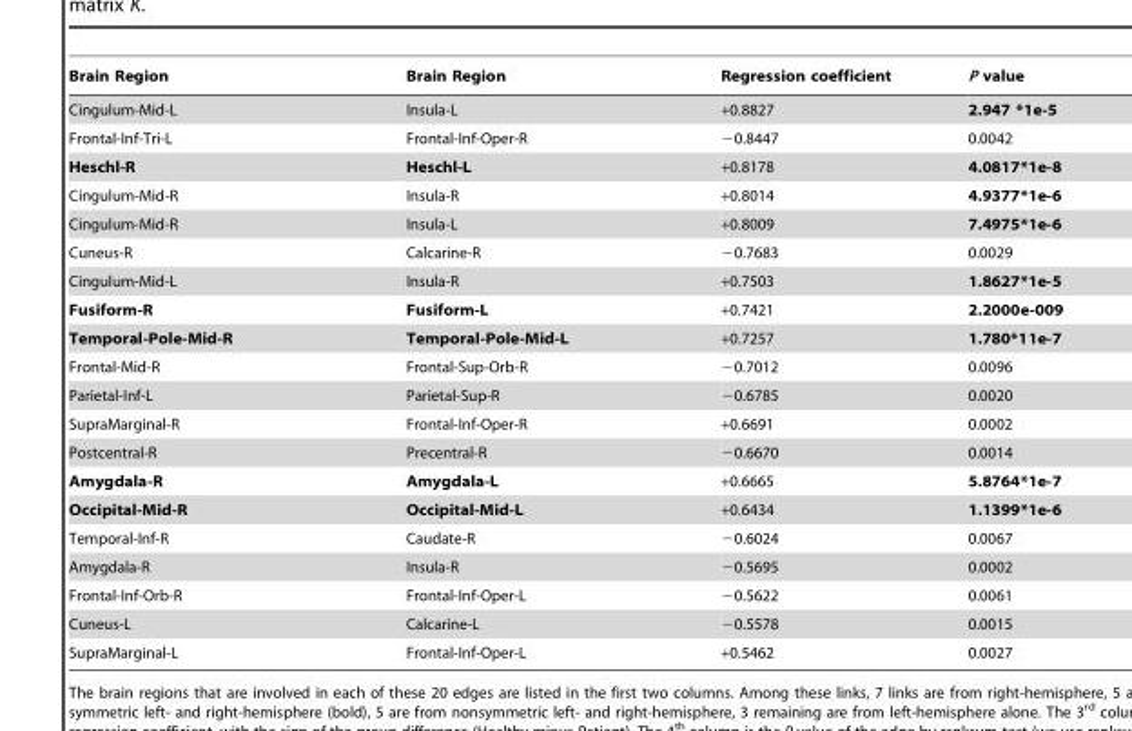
<table><thead><tr><td>Brain Region</td><td>Brain Region</td><td>Regression coefficient</td><td>P value</td></tr></thead><tbody><tr><td>Cingulum-Mid-L</td><td>Insula-L</td><td>+0.8827</td><td>2.947 *1e-5</td></tr><tr><td>Frontal-Inf-Tri-L</td><td>Frontal-Inf-Oper-R</td><td>−0.8447</td><td>0.0042</td></tr><tr><td>Heschl-R</td><td>Heschl-L</td><td>+0.8178</td><td>4.0817*1e-8</td></tr><tr><td>Cingulum-Mid-R</td><td>Insula-R</td><td>+0.8014</td><td>4.9377*1e-6</td></tr><tr><td>Cingulum-Mid-R</td><td>Insula-L</td><td>+0.8009</td><td>7.4975*1e-6</td></tr><tr><td>Cuneus-R</td><td>Calcarine-R</td><td>−0.7683</td><td>0.0029</td></tr><tr><td>Cingulum-Mid-L</td><td>Insula-R</td><td>+0.7503</td><td>1.8627*1e-5</td></tr><tr><td>Fusiform-R</td><td>Fusiform-L</td><td>+0.7421</td><td>2.2000e-009</td></tr><tr><td>Temporal-Pole-Mid-R</td><td>Temporal-Pole-Mid-L</td><td>+0.7257</td><td>1.780*11e-7</td></tr><tr><td>Frontal-Mid-R</td><td>Frontal-Sup-Orb-R</td><td>−0.7012</td><td>0.0096</td></tr><tr><td>Parietal-Inf-L</td><td>Parietal-Sup-R</td><td>−0.6785</td><td>0.0020</td></tr><tr><td>SupraMarginal-R</td><td>Frontal-Inf-Oper-R</td><td>+0.6691</td><td>0.0002</td></tr><tr><td>Postcentral-R</td><td>Precentral-R</td><td>−0.6670</td><td>0.0014</td></tr><tr><td>Amygdala-R</td><td>Amygdala-L</td><td>+0.6665</td><td>5.8764*1e-7</td></tr><tr><td>Occipital-Mid-R</td><td>Occipital-Mid-L</td><td>+0.6434</td><td>1.1399*1e-6</td></tr><tr><td>Temporal-Inf-R</td><td>Caudate-R</td><td>−0.6024</td><td>0.0067</td></tr><tr><td>Amygdala-R</td><td>Insula-R</td><td>−0.5695</td><td>0.0002</td></tr><tr><td>Frontal-Inf-Orb-R</td><td>Frontal-Inf-Oper-L</td><td>−0.5622</td><td>0.0061</td></tr><tr><td>Cuneus-L</td><td>Calcarine-L</td><td>−0.5578</td><td>0.0015</td></tr><tr><td>SupraMarginal-L</td><td>Frontal-Inf-Oper-L</td><td>+0.5462</td><td>0.0027</td></tr></tbody></table>